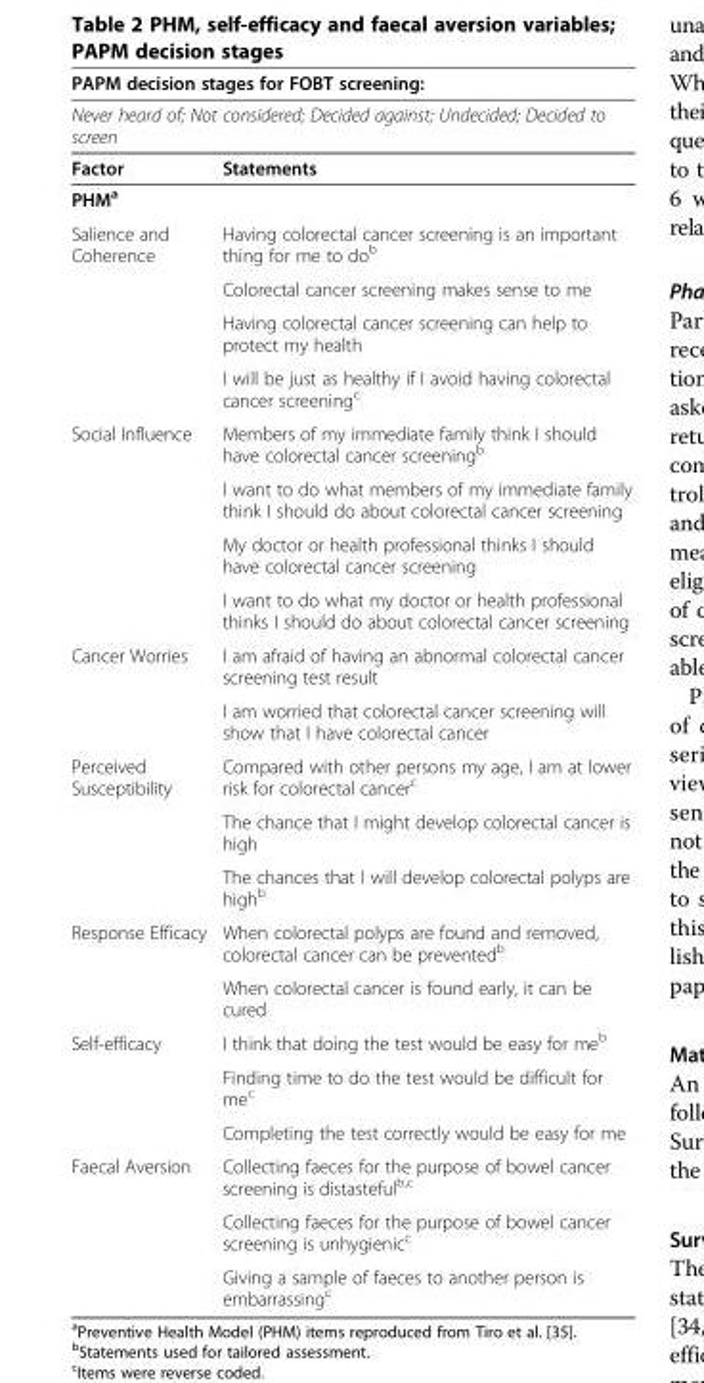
<table><thead><tr><td rowspan="2" colspan="2">PAPM decision stages for FOBT screening: Never heard of; Not considered; Decided against; Undecided; Decided to screen</td></tr><tr></tr><tr><td>Factor</td><td>Statements</td></tr></thead><tbody><tr><td colspan="2">PHM<sup>a</sup></td></tr><tr><td rowspan="4">Salience and Coherence</td><td>Having colorectal cancer screening is an important thing for me to do<sup>b</sup></td></tr><tr><td>Colorectal cancer screening makes sense to me</td></tr><tr><td>Having colorectal cancer screening can help to protect my health</td></tr><tr><td>I will be just as healthy if I avoid having colorectal cancer screening<sup>c</sup></td></tr><tr><td rowspan="4">Social Influence</td><td>Members of my immediate family think I should have colorectal cancer screening<sup>b</sup></td></tr><tr><td>I want to do what members of my immediate family think I should do about colorectal cancer screening</td></tr><tr><td>My doctor or health professional thinks I should have colorectal cancer screening</td></tr><tr><td>I want to do what my doctor or health professional thinks I should do about colorectal cancer screening</td></tr><tr><td rowspan="2">Cancer Worries</td><td>I am afraid of having an abnormal colorectal cancer screening test result</td></tr><tr><td>I am worried that colorectal cancer screening will show that I have colorectal cancer</td></tr><tr><td rowspan="3">Perceived Susceptibility</td><td>Compared with other persons my age, I am at lower risk for colorectal cancer<sup>c</sup></td></tr><tr><td>The chance that I might develop colorectal cancer is high</td></tr><tr><td>The chances that I will develop colorectal polyps are high<sup>b</sup></td></tr><tr><td rowspan="2">Response Efficacy</td><td>When colorectal polyps are found and removed, colorectal cancer can be prevented<sup>b</sup></td></tr><tr><td>When colorectal cancer is found early, it can be cured</td></tr><tr><td rowspan="3">Self-efficacy</td><td>I think that doing the test would be easy for me<sup>b</sup></td></tr><tr><td>Finding time to do the test would be difficult for me<sup>c</sup></td></tr><tr><td>Completing the test correctly would be easy for me</td></tr><tr><td rowspan="3">Faecal Aversion</td><td>Collecting faeces for the purpose of bowel cancer screening is distasteful<sup>b,c</sup></td></tr><tr><td>Collecting faeces for the purpose of bowel cancer screening is unhygienic<sup>c</sup></td></tr><tr><td>Giving a sample of faeces to another person is embarrassing<sup>c</sup></td></tr></tbody></table>